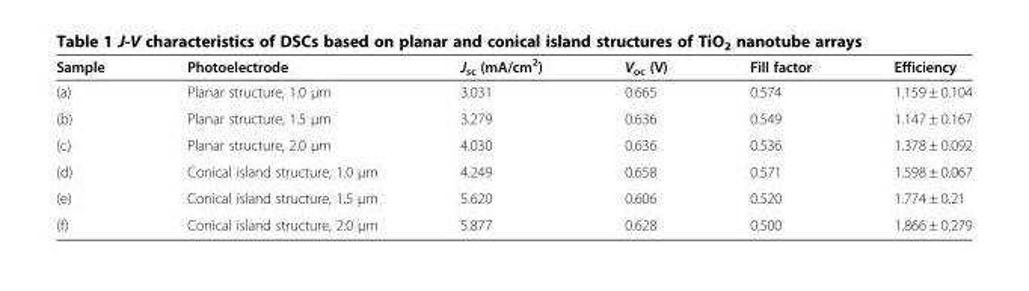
<table><thead><tr><td>Sample</td><td>Photoelectrode</td><td>J<sub>sc</sub> (mA/cm<sup>2</sup>)</td><td>V<sub>oc</sub> (V)</td><td>Fill factor</td><td>Efficiency</td></tr></thead><tbody><tr><td>(a)</td><td>Planar structure, 1.0 μm</td><td>3.031</td><td>0.665</td><td>0.574</td><td>1.159 ± 0.104</td></tr><tr><td>(b)</td><td>Planar structure, 1.5 μm</td><td>3.279</td><td>0.636</td><td>0.549</td><td>1.147 ± 0.167</td></tr><tr><td>(c)</td><td>Planar structure, 2.0 μm</td><td>4.030</td><td>0.636</td><td>0.536</td><td>1.378 ± 0.092</td></tr><tr><td>(d)</td><td>Conical island structure, 1.0 μm</td><td>4.249</td><td>0.658</td><td>0.571</td><td>1.598 ± 0.067</td></tr><tr><td>(e)</td><td>Conical island structure, 1.5 μm</td><td>5.620</td><td>0.606</td><td>0.520</td><td>1.774 ± 0.21</td></tr><tr><td>(f)</td><td>Conical island structure, 2.0 μm</td><td>5.877</td><td>0.628</td><td>0.500</td><td>1.866 ± 0.279</td></tr></tbody></table>